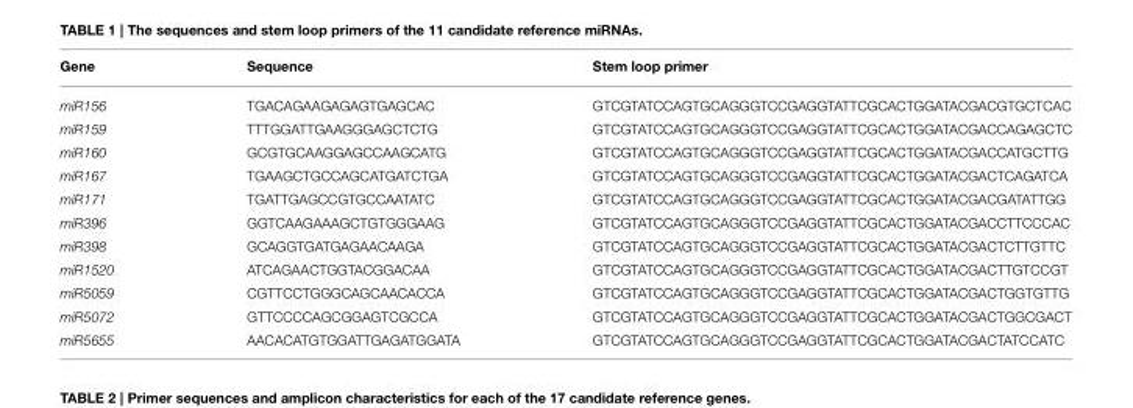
<table><thead><tr><td>Gene</td><td>Sequence</td><td>Stem loop primer</td></tr></thead><tbody><tr><td>miR156</td><td>TGACAGAAGAGAGTGAGCAC</td><td>GTCGTATCCAGTGCAGGGTCCGAGGTATTCGCACTGGATACGACGTGCTCAC</td></tr><tr><td>miR159</td><td>TTTGGATTGAAGGGAGCTCTG</td><td>GTCGTATCCAGTGCAGGGTCCGAGGTATTCGCACTGGATACGACCAGAGCTC</td></tr><tr><td>miR160</td><td>GCGTGCAAGGAGCCAAGCATG</td><td>GTCGTATCCAGTGCAGGGTCCGAGGTATTCGCACTGGATACGACCATGCTTG</td></tr><tr><td>miR167</td><td>TGAAGCTGCCAGCATGATCTGA</td><td>GTCGTATCCAGTGCAGGGTCCGAGGTATTCGCACTGGATACGACTCAGATCA</td></tr><tr><td>miR171</td><td>TGATTGAGCCGTGCCAATATC</td><td>GTCGTATCCAGTGCAGGGTCCGAGGTATTCGCACTGGATACGACGATATTGG</td></tr><tr><td>miR396</td><td>GGTCAAGAAAGCTGTGGGAAG</td><td>GTCGTATCCAGTGCAGGGTCCGAGGTATTCGCACTGGATACGACCTTCCCAC</td></tr><tr><td>miR398</td><td>GCAGGTGATGAGAACAAGA</td><td>GTCGTATCCAGTGCAGGGTCCGAGGTATTCGCACTGGATACGACTCTTGTTC</td></tr><tr><td>miR1520</td><td>ATCAGAACTGGTACGGACAA</td><td>GTCGTATCCAGTGCAGGGTCCGAGGTATTCGCACTGGATACGACTTGTCCGT</td></tr><tr><td>miR5059</td><td>CGTTCCTGGGCAGCAACACCA</td><td>GTCGTATCCAGTGCAGGGTCCGAGGTATTCGCACTGGATACGACTGGTGTTG</td></tr><tr><td>miR5072</td><td>GTTCCCCAGCGGAGTCGCCA</td><td>GTCGTATCCAGTGCAGGGTCCGAGGTATTCGCACTGGATACGACTGGCGACT</td></tr><tr><td>miR5655</td><td>AACACATGTGGATTGAGATGGATA</td><td>GTCGTATCCAGTGCAGGGTCCGAGGTATTCGCACTGGATACGACTATCCATC</td></tr></tbody></table>